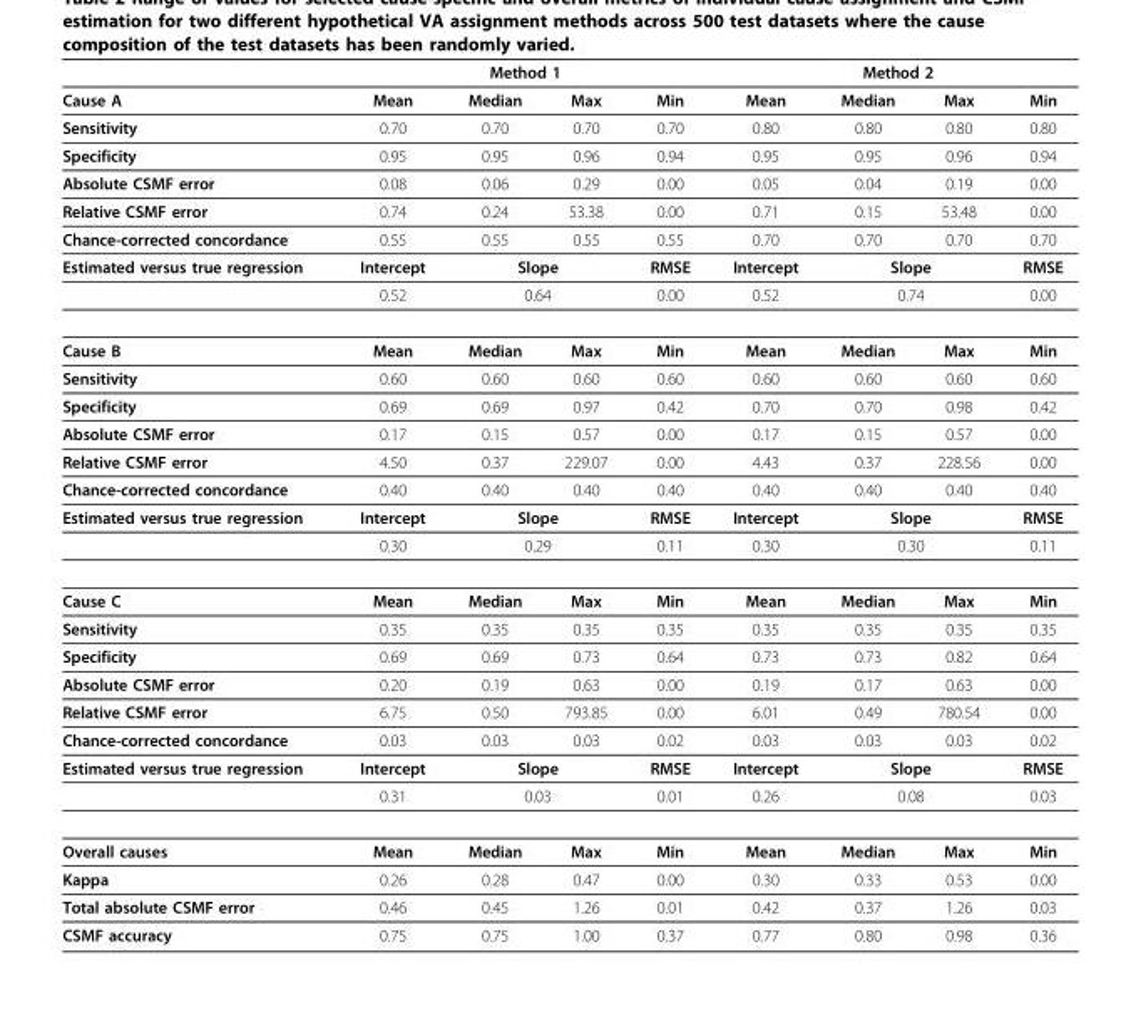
<table><thead><tr><td rowspan="2">Cause A</td><td colspan="4">Method 1</td><td colspan="4">Method 2</td></tr><tr><td>Mean</td><td>Median</td><td>Max</td><td>Min</td><td>Mean</td><td>Median</td><td>Max</td><td>Min</td></tr></thead><tbody><tr><td>Sensitivity</td><td>0.70</td><td>0.70</td><td>0.70</td><td>0.70</td><td>0.80</td><td>0.80</td><td>0.80</td><td>0.80</td></tr><tr><td>Specificity</td><td>0.95</td><td>0.95</td><td>0.96</td><td>0.94</td><td>0.95</td><td>0.95</td><td>0.96</td><td>0.94</td></tr><tr><td>Absolute CSMF error</td><td>0.08</td><td>0.06</td><td>0.29</td><td>0.00</td><td>0.05</td><td>0.04</td><td>0.19</td><td>0.00</td></tr><tr><td>Relative CSMF error</td><td>0.74</td><td>0.24</td><td>53.38</td><td>0.00</td><td>0.71</td><td>0.15</td><td>53.48</td><td>0.00</td></tr><tr><td>Chance-corrected concordance</td><td>0.55</td><td>0.55</td><td>0.55</td><td>0.55</td><td>0.70</td><td>0.70</td><td>0.70</td><td>0.70</td></tr><tr><td rowspan="2">Estimated versus true regression</td><td>Intercept</td><td colspan="2">Slope</td><td>RMSE</td><td>Intercept</td><td colspan="2">Slope</td><td>RMSE</td></tr><tr><td>0.52</td><td colspan="2">0.64</td><td>0.00</td><td>0.52</td><td colspan="2">0.74</td><td>0.00</td></tr><tr><td>Cause B</td><td>Mean</td><td>Median</td><td>Max</td><td>Min</td><td>Mean</td><td>Median</td><td>Max</td><td>Min</td></tr><tr><td>Sensitivity</td><td>0.60</td><td>0.60</td><td>0.60</td><td>0.60</td><td>0.60</td><td>0.60</td><td>0.60</td><td>0.60</td></tr><tr><td>Specificity</td><td>0.69</td><td>0.69</td><td>0.97</td><td>0.42</td><td>0.70</td><td>0.70</td><td>0.98</td><td>0.42</td></tr><tr><td>Absolute CSMF error</td><td>0.17</td><td>0.15</td><td>0.57</td><td>0.00</td><td>0.17</td><td>0.15</td><td>0.57</td><td>0.00</td></tr><tr><td>Relative CSMF error</td><td>4.50</td><td>0.37</td><td>229.07</td><td>0.00</td><td>4.43</td><td>0.37</td><td>228.56</td><td>0.00</td></tr><tr><td>Chance-corrected concordance</td><td>0.40</td><td>0.40</td><td>0.40</td><td>0.40</td><td>0.40</td><td>0.40</td><td>0.40</td><td>0.40</td></tr><tr><td rowspan="2">Estimated versus true regression</td><td>Intercept</td><td colspan="2">Slope</td><td>RMSE</td><td>Intercept</td><td colspan="2">Slope</td><td>RMSE</td></tr><tr><td>0.30</td><td colspan="2">0.29</td><td>0.11</td><td>0.30</td><td colspan="2">0.30</td><td>0.11</td></tr><tr><td>Cause C</td><td>Mean</td><td>Median</td><td>Max</td><td>Min</td><td>Mean</td><td>Median</td><td>Max</td><td>Min</td></tr><tr><td>Sensitivity</td><td>0.35</td><td>0.35</td><td>0.35</td><td>0.35</td><td>0.35</td><td>0.35</td><td>0.35</td><td>0.35</td></tr><tr><td>Specificity</td><td>0.69</td><td>0.69</td><td>0.73</td><td>0.64</td><td>0.73</td><td>0.73</td><td>0.82</td><td>0.64</td></tr><tr><td>Absolute CSMF error</td><td>0.20</td><td>0.19</td><td>0.63</td><td>0.00</td><td>0.19</td><td>0.17</td><td>0.63</td><td>0.00</td></tr><tr><td>Relative CSMF error</td><td>6.75</td><td>0.50</td><td>793.85</td><td>0.00</td><td>6.01</td><td>0.49</td><td>780.54</td><td>0.00</td></tr><tr><td>Chance-corrected concordance</td><td>0.03</td><td>0.03</td><td>0.03</td><td>0.02</td><td>0.03</td><td>0.03</td><td>0.03</td><td>0.02</td></tr><tr><td rowspan="2">Estimated versus true regression</td><td>Intercept</td><td colspan="2">Slope</td><td>RMSE</td><td>Intercept</td><td colspan="2">Slope</td><td>RMSE</td></tr><tr><td>0.31</td><td colspan="2">0.03</td><td>0.01</td><td>0.26</td><td colspan="2">0.08</td><td>0.03</td></tr><tr><td>Overall causes</td><td>Mean</td><td>Median</td><td>Max</td><td>Min</td><td>Mean</td><td>Median</td><td>Max</td><td>Min</td></tr><tr><td>Kappa</td><td>0.26</td><td>0.28</td><td>0.47</td><td>0.00</td><td>0.30</td><td>0.33</td><td>0.53</td><td>0.00</td></tr><tr><td>Total absolute CSMF error</td><td>0.46</td><td>0.45</td><td>1.26</td><td>0.01</td><td>0.42</td><td>0.37</td><td>1.26</td><td>0.03</td></tr><tr><td>CSMF accuracy</td><td>0.75</td><td>0.75</td><td>1.00</td><td>0.37</td><td>0.77</td><td>0.80</td><td>0.98</td><td>0.36</td></tr></tbody></table>